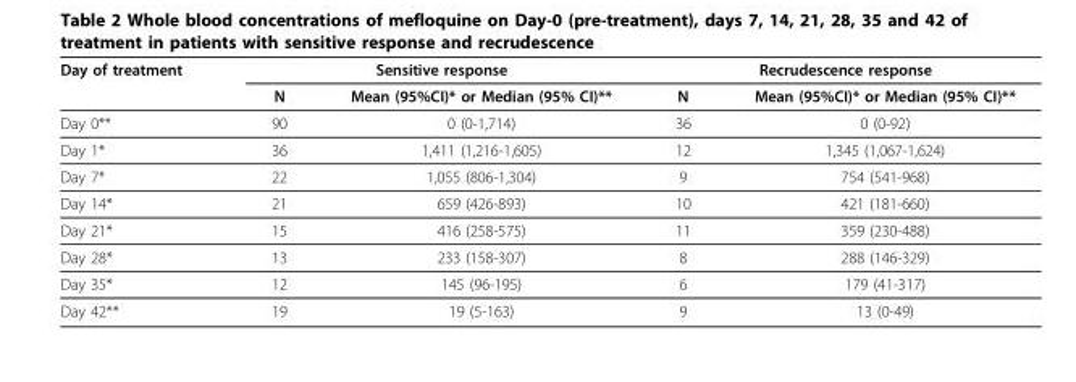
<table><thead><tr><td rowspan="2">Day of treatment</td><td colspan="2">Sensitive response</td><td colspan="2">Recrudescence response</td></tr><tr><td>N</td><td>Mean (95%CI)* or Median (95% CI)**</td><td>N</td><td>Mean (95%CI)* or Median (95% CI)**</td></tr></thead><tbody><tr><td>Day 0**</td><td>90</td><td>0 (0-1,714)</td><td>36</td><td>0 (0-92)</td></tr><tr><td>Day 1*</td><td>36</td><td>1,411 (1,216-1,605)</td><td>12</td><td>1,345 (1,067-1,624)</td></tr><tr><td>Day 7*</td><td>22</td><td>1,055 (806-1,304)</td><td>9</td><td>754 (541-968)</td></tr><tr><td>Day 14*</td><td>21</td><td>659 (426-893)</td><td>10</td><td>421 (181-660)</td></tr><tr><td>Day 21*</td><td>15</td><td>416 (258-575)</td><td>11</td><td>359 (230-488)</td></tr><tr><td>Day 28*</td><td>13</td><td>233 (158-307)</td><td>8</td><td>288 (146-329)</td></tr><tr><td>Day 35*</td><td>12</td><td>145 (96-195)</td><td>6</td><td>179 (41-317)</td></tr><tr><td>Day 42**</td><td>19</td><td>19 (5-163)</td><td>9</td><td>13 (0-49)</td></tr></tbody></table>